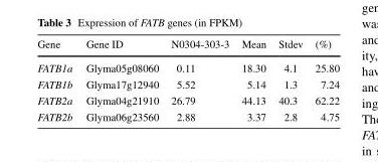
<table><thead><tr><td>Gene</td><td>Gene ID</td><td>N0304-303-3</td><td>Mean</td><td>Stdev</td><td>(%)</td></tr></thead><tbody><tr><td>FATB1a</td><td>Glyma05g08060</td><td>0.11</td><td>18.30</td><td>4.1</td><td>25.80</td></tr><tr><td>FATB1b</td><td>Glyma17g12940</td><td>5.52</td><td>5.14</td><td>1.3</td><td>7.24</td></tr><tr><td>FATB2a</td><td>Glyma04g21910</td><td>26.79</td><td>44.13</td><td>40.3</td><td>62.22</td></tr><tr><td>FATB2b</td><td>Glyma06g23560</td><td>2.88</td><td>3.37</td><td>2.8</td><td>4.75</td></tr></tbody></table>